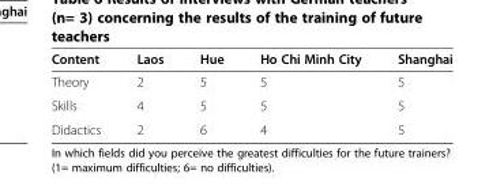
<table><thead><tr><td>Content</td><td>Laos</td><td>Hue</td><td>Ho Chi Minh City</td><td>Shanghai</td></tr></thead><tbody><tr><td>Theory</td><td>2</td><td>5</td><td>5</td><td>5</td></tr><tr><td>Skills</td><td>4</td><td>5</td><td>5</td><td>5</td></tr><tr><td>Didactics</td><td>2</td><td>6</td><td>4</td><td>5</td></tr></tbody></table>